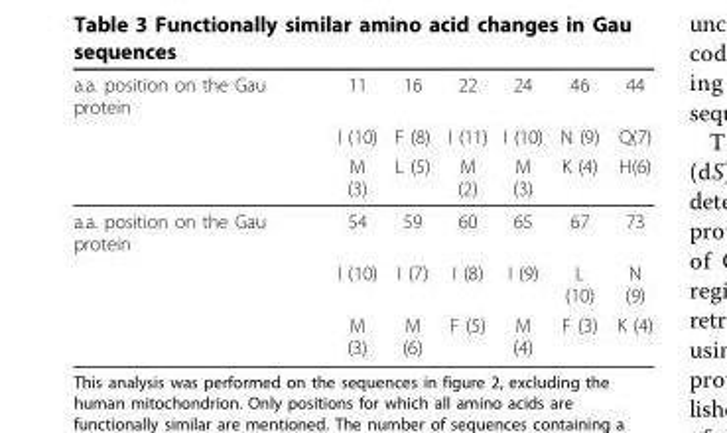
<table><thead><tr><td rowspan="3">a.a. position on the Gau protein</td><td rowspan="3">11 I (10) M (3)</td><td rowspan="3">16 F (8) L (5)</td><td rowspan="3">22 I (11) M (2)</td><td rowspan="3">24 I (10) M (3)</td><td rowspan="3">46 N (9) K (4)</td><td rowspan="3">44 Q(7) H(6)</td></tr><tr></tr><tr></tr></thead><tbody><tr><td rowspan="3">a.a. position on the Gau protein</td><td>54</td><td>59</td><td>60</td><td>65</td><td>67</td><td>73</td></tr><tr><td>I (10)</td><td>I (7)</td><td>I (8)</td><td>I (9)</td><td>L (10)</td><td>N (9)</td></tr><tr><td>M (3)</td><td>M (6)</td><td>F (5)</td><td>M (4)</td><td>F (3)</td><td>K (4)</td></tr></tbody></table>